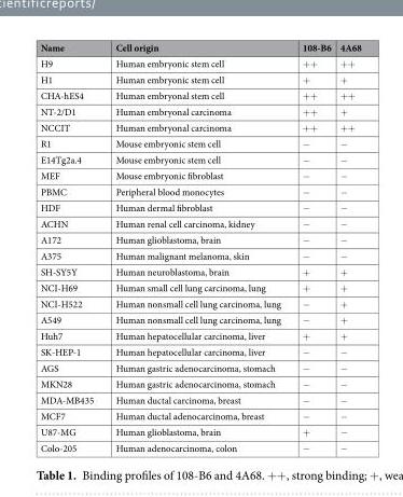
<table><thead><tr><td>Name</td><td>Cell origin</td><td>108-B6</td><td>4A68</td></tr></thead><tbody><tr><td>H9</td><td>Human embryonic stem cell</td><td>++</td><td>++</td></tr><tr><td>H1</td><td>Human embryonic stem cell</td><td>+</td><td>+</td></tr><tr><td>CHA-hES4</td><td>Human embryonal stem cell</td><td>++</td><td>++</td></tr><tr><td>NT-2/D1</td><td>Human embryonal carcinoma</td><td>++</td><td>+</td></tr><tr><td>NCCIT</td><td>Human embryonal carcinoma</td><td>++</td><td>++</td></tr><tr><td>R1</td><td>Mouse embryonic stem cell</td><td>−</td><td>−</td></tr><tr><td>E14Tg2a.4</td><td>Mouse embryonic stem cell</td><td>−</td><td>−</td></tr><tr><td>MEF</td><td>Mouse embryonic fibroblast</td><td>−</td><td>−</td></tr><tr><td>PBMC</td><td>Peripheral blood monocytes</td><td>−</td><td>−</td></tr><tr><td>HDF</td><td>Human dermal fibroblast</td><td>−</td><td>−</td></tr><tr><td>ACHN</td><td>Human renal cell carcinoma, kidney</td><td>−</td><td>−</td></tr><tr><td>A172</td><td>Human glioblastoma, brain</td><td>−</td><td>−</td></tr><tr><td>A375</td><td>Human malignant melanoma, skin</td><td>−</td><td>−</td></tr><tr><td>SH-SY5Y</td><td>Human neuroblastoma, brain</td><td>+</td><td>+</td></tr><tr><td>NCI-H69</td><td>Human small cell lung carcinoma, lung</td><td>+</td><td>+</td></tr><tr><td>NCI-H522</td><td>Human nonsmall cell lung carcinoma, lung</td><td>−</td><td>+</td></tr><tr><td>A549</td><td>Human nonsmall cell lung carcinoma, lung</td><td>−</td><td>+</td></tr><tr><td>Huh7</td><td>Human hepatocellular carcinoma, liver</td><td>+</td><td>+</td></tr><tr><td>SK-HEP-1</td><td>Human hepatocellular carcinoma, liver</td><td>−</td><td>−</td></tr><tr><td>AGS</td><td>Human gastric adenocarcinoma, stomach</td><td>−</td><td>−</td></tr><tr><td>MKN28</td><td>Human gastric adenocarcinoma, stomach</td><td>−</td><td>−</td></tr><tr><td>MDA-MB435</td><td>Human ductal carcinoma, breast</td><td>−</td><td>−</td></tr><tr><td>MCF7</td><td>Human ductal adenocarcinoma, breast</td><td>−</td><td>−</td></tr><tr><td>U87-MG</td><td>Human glioblastoma, brain</td><td>+</td><td>−</td></tr><tr><td>Colo-205</td><td>Human adenocarcinoma, colon</td><td>−</td><td>−</td></tr></tbody></table>